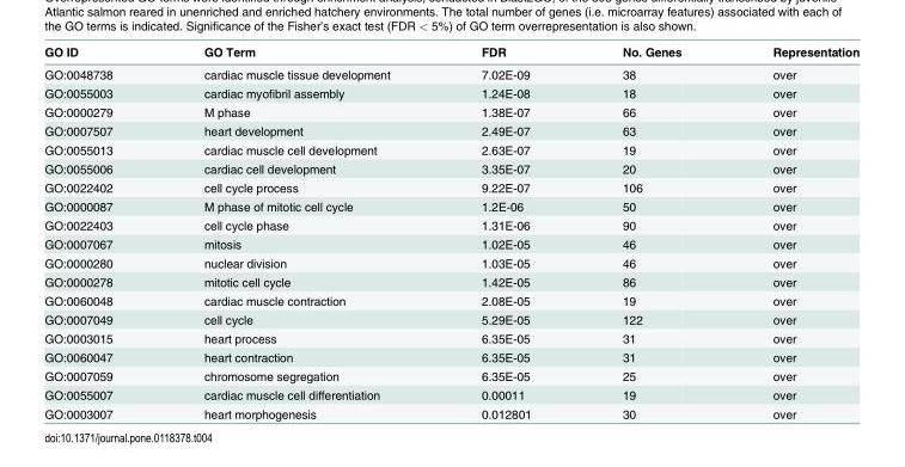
<table><thead><tr><td>GO ID</td><td>GO Term</td><td>FDR</td><td>No. Genes</td><td>Representation</td></tr></thead><tbody><tr><td>GO:0048738</td><td>cardiac muscle tissue development</td><td>7.02E-09</td><td>38</td><td>over</td></tr><tr><td>GO:0055003</td><td>cardiac myofibril assembly</td><td>1.24E-08</td><td>18</td><td>over</td></tr><tr><td>GO:0000279</td><td>M phase</td><td>1.38E-07</td><td>66</td><td>over</td></tr><tr><td>GO:0007507</td><td>heart development</td><td>2.49E-07</td><td>63</td><td>over</td></tr><tr><td>GO:0055013</td><td>cardiac muscle cell development</td><td>2.63E-07</td><td>19</td><td>over</td></tr><tr><td>GO:0055006</td><td>cardiac cell development</td><td>3.35E-07</td><td>20</td><td>over</td></tr><tr><td>GO:0022402</td><td>cell cycle process</td><td>9.22E-07</td><td>106</td><td>over</td></tr><tr><td>GO:0000087</td><td>M phase of mitotic cell cycle</td><td>1.2E-06</td><td>50</td><td>over</td></tr><tr><td>GO:0022403</td><td>cell cycle phase</td><td>1.31E-06</td><td>90</td><td>over</td></tr><tr><td>GO:0007067</td><td>mitosis</td><td>1.02E-05</td><td>46</td><td>over</td></tr><tr><td>GO:0000280</td><td>nuclear division</td><td>1.03E-05</td><td>46</td><td>over</td></tr><tr><td>GO:0000278</td><td>mitotic cell cycle</td><td>1.42E-05</td><td>86</td><td>over</td></tr><tr><td>GO:0060048</td><td>cardiac muscle contraction</td><td>2.08E-05</td><td>19</td><td>over</td></tr><tr><td>GO:0007049</td><td>cell cycle</td><td>5.29E-05</td><td>122</td><td>over</td></tr><tr><td>GO:0003015</td><td>heart process</td><td>6.35E-05</td><td>31</td><td>over</td></tr><tr><td>GO:0060047</td><td>heart contraction</td><td>6.35E-05</td><td>31</td><td>over</td></tr><tr><td>GO:0007059</td><td>chromosome segregation</td><td>6.35E-05</td><td>25</td><td>over</td></tr><tr><td>GO:0055007</td><td>cardiac muscle cell differentiation</td><td>0.00011</td><td>19</td><td>over</td></tr><tr><td>GO:0003007</td><td>heart morphogenesis</td><td>0.012801</td><td>30</td><td>over</td></tr></tbody></table>